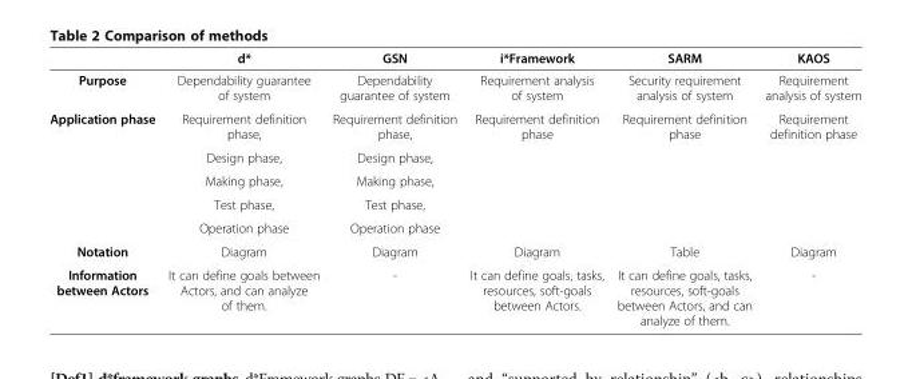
<table><thead><tr><td></td><td>d*</td><td>GSN</td><td>i*Framework</td><td>SARM</td><td>KAOS</td></tr></thead><tbody><tr><td>Purpose</td><td>Dependability guarantee of system</td><td>Dependability guarantee of system</td><td>Requirement analysis of system</td><td>Security requirement analysis of system</td><td>Requirement analysis of system</td></tr><tr><td rowspan="5">Application phase</td><td>Requirement definition phase,</td><td>Requirement definition phase,</td><td rowspan="5">Requirement definition phase</td><td rowspan="5">Requirement definition phase</td><td rowspan="5">Requirement definition phase</td></tr><tr><td>Design phase,</td><td>Design phase,</td></tr><tr><td>Making phase,</td><td>Making phase,</td></tr><tr><td>Test phase,</td><td>Test phase,</td></tr><tr><td>Operation phase</td><td>Operation phase</td></tr><tr><td>Notation</td><td>Diagram</td><td>Diagram</td><td>Diagram</td><td>Table</td><td>Diagram</td></tr><tr><td>Information between Actors</td><td>It can define goals between Actors, and can analyze of them.</td><td>-</td><td>It can define goals, tasks, resources, soft-goals between Actors.</td><td>It can define goals, tasks, resources, soft-goals between Actors, and can analyze of them.</td><td>-</td></tr></tbody></table>